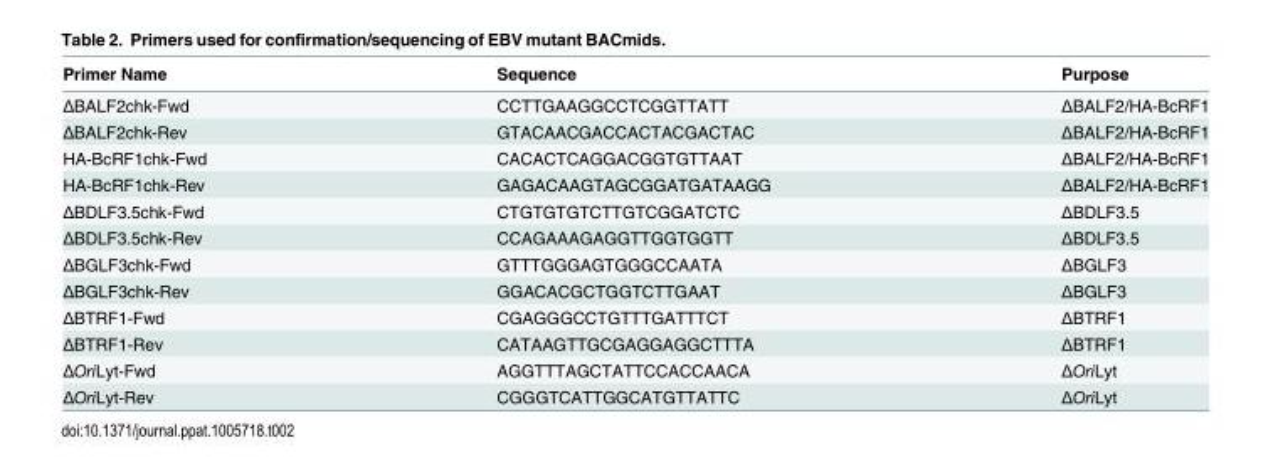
<table><thead><tr><td>Primer Name</td><td>Sequence</td><td>Purpose</td></tr></thead><tbody><tr><td>ΔBALF2chk-Fwd</td><td>CCTTGAAGGCCTCGGTTATT</td><td>ΔBALF2/HA-BcRF1</td></tr><tr><td>ΔBALF2chk-Rev</td><td>GTACAACGACCACTACGACTAC</td><td>ΔBALF2/HA-BcRF1</td></tr><tr><td>HA-BcRF1chk-Fwd</td><td>CACACTCAGGACGGTGTTAAT</td><td>ΔBALF2/HA-BcRF1</td></tr><tr><td>HA-BcRF1chk-Rev</td><td>GAGACAAGTAGCGGATGATAAGG</td><td>ΔBALF2/HA-BcRF1</td></tr><tr><td>ΔBDLF3.5chk-Fwd</td><td>CTGTGTGTCTTGTCGGATCTC</td><td>ΔBDLF3.5</td></tr><tr><td>ΔBDLF3.5chk-Rev</td><td>CCAGAAAGAGGTTGGTGGTT</td><td>ΔBDLF3.5</td></tr><tr><td>ΔBGLF3chk-Fwd</td><td>GTTTGGGAGTGGGCCAATA</td><td>ΔBGLF3</td></tr><tr><td>ΔBGLF3chk-Rev</td><td>GGACACGCTGGTCTTGAAT</td><td>ΔBGLF3</td></tr><tr><td>ΔBTRF1-Fwd</td><td>CGAGGGCCTGTTTGATTTCT</td><td>ΔBTRF1</td></tr><tr><td>ΔBTRF1-Rev</td><td>CATAAGTTGCGAGGAGGCTTTA</td><td>ΔBTRF1</td></tr><tr><td>ΔOriLyt-Fwd</td><td>AGGTTTAGCTATTCCACCAACA</td><td>ΔOriLyt</td></tr><tr><td>ΔOriLyt-Rev</td><td>CGGGTCATTGGCATGTTATTC</td><td>ΔOriLyt</td></tr></tbody></table>